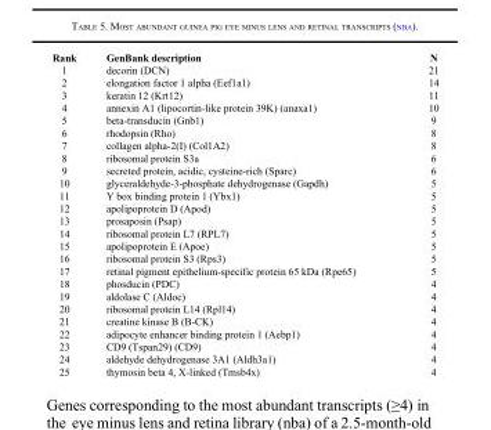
<table><thead><tr><td>Rank</td><td>GenBank description</td><td>N</td></tr></thead><tbody><tr><td>1</td><td>decorin (DCN)</td><td>21</td></tr><tr><td>2</td><td>elongation factor 1 alpha (Eef1a1)</td><td>14</td></tr><tr><td>3</td><td>keratin 12 (Krt12)</td><td>11</td></tr><tr><td>4</td><td>annexin A1 (lipocortin-like protein 39K) (anaxa1)</td><td>10</td></tr><tr><td>5</td><td>beta-transducin (Gnb1)</td><td>9</td></tr><tr><td>6</td><td>rhodopsin (Rho)</td><td>8</td></tr><tr><td>7</td><td>collagen alpha-2(I) (Col1A2)</td><td>8</td></tr><tr><td>8</td><td>ribosomal protein S3a</td><td>6</td></tr><tr><td>9</td><td>secreted protein, acidic, cysteine-rich (Sparc)</td><td>6</td></tr><tr><td>10</td><td>glyceraldehyde-3-phosphate dehydrogenase (Gapdh)</td><td>5</td></tr><tr><td>11</td><td>Y box binding protein 1 (Ybx1)</td><td>5</td></tr><tr><td>12</td><td>apolipoprotein D (Apod)</td><td>5</td></tr><tr><td>13</td><td>prosaposin (Psap)</td><td>5</td></tr><tr><td>14</td><td>ribosomal protein L7 (RPL7)</td><td>5</td></tr><tr><td>15</td><td>apolipoprotein E (Apoe)</td><td>5</td></tr><tr><td>16</td><td>ribosomal protein S3 (Rps3)</td><td>5</td></tr><tr><td>17</td><td>retinal pigment epithelium-specific protein 65 kDa (Rpe65)</td><td>5</td></tr><tr><td>18</td><td>phosducin (PDC)</td><td>4</td></tr><tr><td>19</td><td>aldolase C (Aldoc)</td><td>4</td></tr><tr><td>20</td><td>ribosomal protein L14 (Rpl14)</td><td>4</td></tr><tr><td>21</td><td>creatine kinase B (B-CK)</td><td>4</td></tr><tr><td>22</td><td>adipocyte enhancer binding protein 1 (Aebp1)</td><td>4</td></tr><tr><td>23</td><td>CD9 (Tspan29) (CD9)</td><td>4</td></tr><tr><td>24</td><td>aldehyde dehydrogenase 3A1 (Aldh3a1)</td><td>4</td></tr><tr><td>25</td><td>thymosin beta 4, X-linked (Tmsb4x)</td><td>4</td></tr></tbody></table>